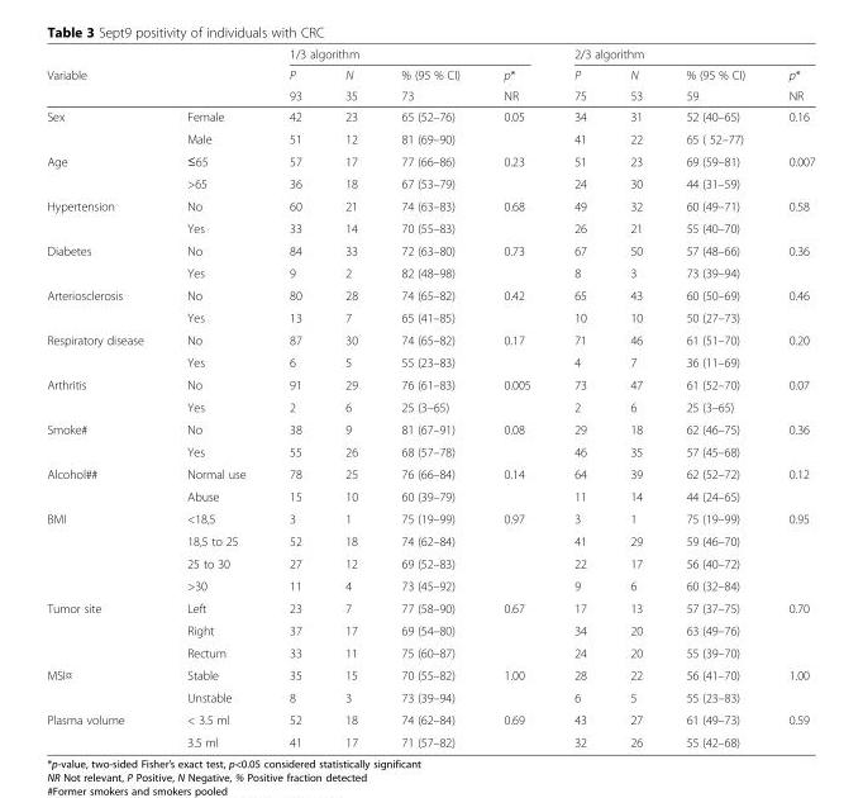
<table><thead><tr><td rowspan="3">Variable</td><td rowspan="3"></td><td colspan="4">1/3 algorithm</td><td colspan="4">2/3 algorithm</td></tr><tr><td rowspan="2">P 93</td><td rowspan="2">N 35</td><td rowspan="2">% (95 % CI) 73</td><td rowspan="2">p* NR</td><td rowspan="2">P 75</td><td rowspan="2">N 53</td><td rowspan="2">% (95 % CI) 59</td><td rowspan="2">p* NR</td></tr><tr></tr></thead><tbody><tr><td rowspan="2">Sex</td><td>Female</td><td>42</td><td>23</td><td>65 (52–76)</td><td>0.05</td><td>34</td><td>31</td><td>52 (40–65)</td><td>0.16</td></tr><tr><td>Male</td><td>51</td><td>12</td><td>81 (69–90)</td><td></td><td>41</td><td>22</td><td>65 ( 52–77)</td><td></td></tr><tr><td rowspan="2">Age</td><td>≤65</td><td>57</td><td>17</td><td>77 (66–86)</td><td>0.23</td><td>51</td><td>23</td><td>69 (59–81)</td><td>0.007</td></tr><tr><td>&gt;65</td><td>36</td><td>18</td><td>67 (53–79)</td><td></td><td>24</td><td>30</td><td>44 (31–59)</td><td></td></tr><tr><td rowspan="2">Hypertension</td><td>No</td><td>60</td><td>21</td><td>74 (63–83)</td><td>0.68</td><td>49</td><td>32</td><td>60 (49–71)</td><td>0.58</td></tr><tr><td>Yes</td><td>33</td><td>14</td><td>70 (55–83)</td><td></td><td>26</td><td>21</td><td>55 (40–70)</td><td></td></tr><tr><td rowspan="2">Diabetes</td><td>No</td><td>84</td><td>33</td><td>72 (63–80)</td><td>0.73</td><td>67</td><td>50</td><td>57 (48–66)</td><td>0.36</td></tr><tr><td>Yes</td><td>9</td><td>2</td><td>82 (48–98)</td><td></td><td>8</td><td>3</td><td>73 (39–94)</td><td></td></tr><tr><td rowspan="2">Arteriosclerosis</td><td>No</td><td>80</td><td>28</td><td>74 (65–82)</td><td>0.42</td><td>65</td><td>43</td><td>60 (50–69)</td><td>0.46</td></tr><tr><td>Yes</td><td>13</td><td>7</td><td>65 (41–85)</td><td></td><td>10</td><td>10</td><td>50 (27–73)</td><td></td></tr><tr><td rowspan="2">Respiratory disease</td><td>No</td><td>87</td><td>30</td><td>74 (65–82)</td><td>0.17</td><td>71</td><td>46</td><td>61 (51–70)</td><td>0.20</td></tr><tr><td>Yes</td><td>6</td><td>5</td><td>55 (23–83)</td><td></td><td>4</td><td>7</td><td>36 (11–69)</td><td></td></tr><tr><td rowspan="2">Arthritis</td><td>No</td><td>91</td><td>29</td><td>76 (61–83)</td><td>0.005</td><td>73</td><td>47</td><td>61 (52–70)</td><td>0.07</td></tr><tr><td>Yes</td><td>2</td><td>6</td><td>25 (3–65)</td><td></td><td>2</td><td>6</td><td>25 (3–65)</td><td></td></tr><tr><td rowspan="2">Smoke#</td><td>No</td><td>38</td><td>9</td><td>81 (67–91)</td><td>0.08</td><td>29</td><td>18</td><td>62 (46–75)</td><td>0.36</td></tr><tr><td>Yes</td><td>55</td><td>26</td><td>68 (57–78)</td><td></td><td>46</td><td>35</td><td>57 (45–68)</td><td></td></tr><tr><td rowspan="2">Alcohol##</td><td>Normal use</td><td>78</td><td>25</td><td>76 (66–84)</td><td>0.14</td><td>64</td><td>39</td><td>62 (52–72)</td><td>0.12</td></tr><tr><td>Abuse</td><td>15</td><td>10</td><td>60 (39–79)</td><td></td><td>11</td><td>14</td><td>44 (24–65)</td><td></td></tr><tr><td rowspan="4">BMI</td><td>&lt;18,5</td><td>3</td><td>1</td><td>75 (19–99)</td><td>0.97</td><td>3</td><td>1</td><td>75 (19–99)</td><td>0.95</td></tr><tr><td>18,5 to 25</td><td>52</td><td>18</td><td>74 (62–84)</td><td></td><td>41</td><td>29</td><td>59 (46–70)</td><td></td></tr><tr><td>25 to 30</td><td>27</td><td>12</td><td>69 (52–83)</td><td></td><td>22</td><td>17</td><td>56 (40–72)</td><td></td></tr><tr><td>&gt;30</td><td>11</td><td>4</td><td>73 (45–92)</td><td></td><td>9</td><td>6</td><td>60 (32–84)</td><td></td></tr><tr><td rowspan="3">Tumor site</td><td>Left</td><td>23</td><td>7</td><td>77 (58–90)</td><td>0.67</td><td>17</td><td>13</td><td>57 (37–75)</td><td>0.70</td></tr><tr><td>Right</td><td>37</td><td>17</td><td>69 (54–80)</td><td></td><td>34</td><td>20</td><td>63 (49–76)</td><td></td></tr><tr><td>Rectum</td><td>33</td><td>11</td><td>75 (60–87)</td><td></td><td>24</td><td>20</td><td>55 (39–70)</td><td></td></tr><tr><td rowspan="2">MSI¤</td><td>Stable</td><td>35</td><td>15</td><td>70 (55–82)</td><td>1.00</td><td>28</td><td>22</td><td>56 (41–70)</td><td>1.00</td></tr><tr><td>Unstable</td><td>8</td><td>3</td><td>73 (39–94)</td><td></td><td>6</td><td>5</td><td>55 (23–83)</td><td></td></tr><tr><td rowspan="2">Plasma volume</td><td>&lt; 3.5 ml</td><td>52</td><td>18</td><td>74 (62–84)</td><td>0.69</td><td>43</td><td>27</td><td>61 (49–73)</td><td>0.59</td></tr><tr><td>3.5 ml</td><td>41</td><td>17</td><td>71 (57–82)</td><td></td><td>32</td><td>26</td><td>55 (42–68)</td><td></td></tr></tbody></table>